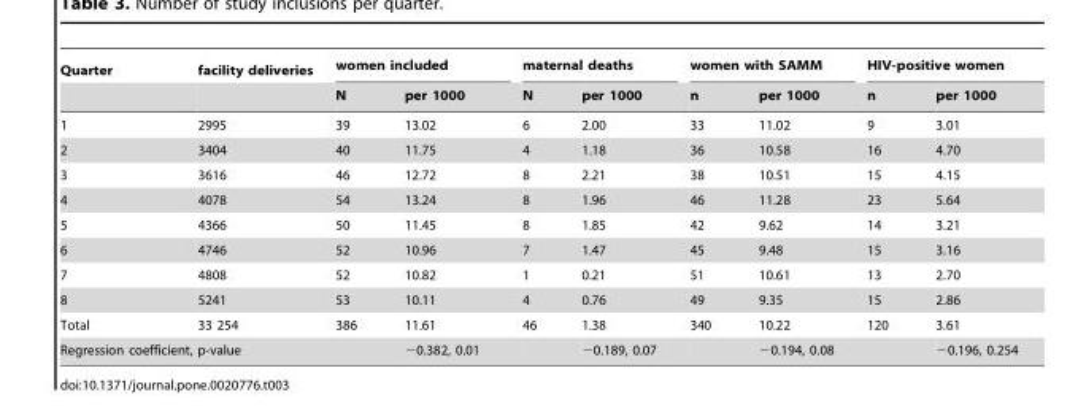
<table><thead><tr><td rowspan="2">Quarter</td><td rowspan="2">facility deliveries</td><td colspan="2">women included</td><td colspan="2">maternal deaths</td><td colspan="2">women with SAMM</td><td colspan="2">HIV-positive women</td></tr><tr><td>N</td><td>per 1000</td><td>N</td><td>per 1000</td><td>n</td><td>per 1000</td><td>n</td><td>per 1000</td></tr></thead><tbody><tr><td>1</td><td>2995</td><td>39</td><td>13.02</td><td>6</td><td>2.00</td><td>33</td><td>11.02</td><td>9</td><td>3.01</td></tr><tr><td>2</td><td>3404</td><td>40</td><td>11.75</td><td>4</td><td>1.18</td><td>36</td><td>10.58</td><td>16</td><td>4.70</td></tr><tr><td>3</td><td>3616</td><td>46</td><td>12.72</td><td>8</td><td>2.21</td><td>38</td><td>10.51</td><td>15</td><td>4.15</td></tr><tr><td>4</td><td>4078</td><td>54</td><td>13.24</td><td>8</td><td>1.96</td><td>46</td><td>11.28</td><td>23</td><td>5.64</td></tr><tr><td>5</td><td>4366</td><td>50</td><td>11.45</td><td>8</td><td>1.85</td><td>42</td><td>9.62</td><td>14</td><td>3.21</td></tr><tr><td>6</td><td>4746</td><td>52</td><td>10.96</td><td>7</td><td>1.47</td><td>45</td><td>9.48</td><td>15</td><td>3.16</td></tr><tr><td>7</td><td>4808</td><td>52</td><td>10.82</td><td>1</td><td>0.21</td><td>51</td><td>10.61</td><td>13</td><td>2.70</td></tr><tr><td>8</td><td>5241</td><td>53</td><td>10.11</td><td>4</td><td>0.76</td><td>49</td><td>9.35</td><td>15</td><td>2.86</td></tr><tr><td>Total</td><td>33 254</td><td>386</td><td>11.61</td><td>46</td><td>1.38</td><td>340</td><td>10.22</td><td>120</td><td>3.61</td></tr><tr><td colspan="3">Regression coefficient, p-value</td><td>−0.382, 0.01</td><td></td><td>−0.189, 0.07</td><td></td><td>−0.194, 0.08</td><td></td><td>−0.196, 0.254</td></tr></tbody></table>